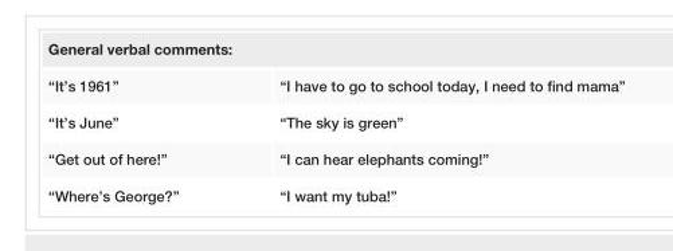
<table><tbody><tr><td colspan="2">General verbal comments:</td></tr><tr><td>“It’s 1961”</td><td>“I have to go to school today, I need to find mama”</td></tr><tr><td>“It’s June”</td><td>“The sky is green”</td></tr><tr><td>“Get out of here!”</td><td>“I can hear elephants coming!”</td></tr><tr><td>“Where’s George?”</td><td>“I want my tuba!”</td></tr></tbody></table>